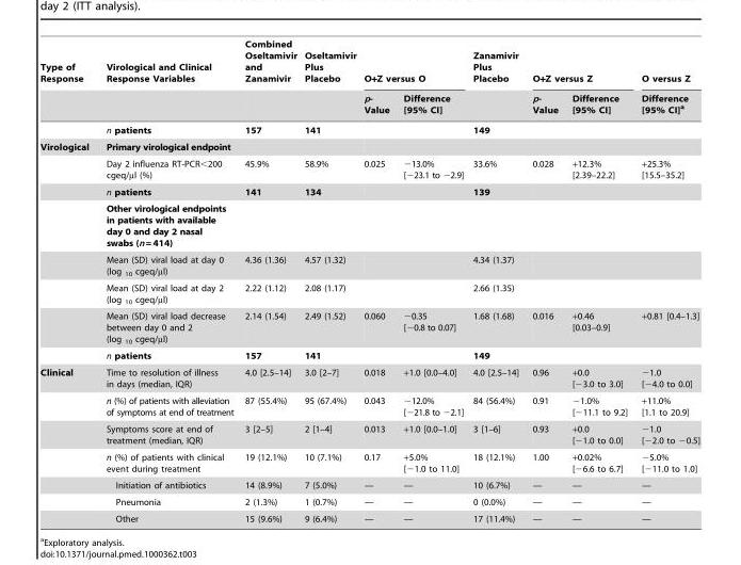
<table><thead><tr><td rowspan="2">Type of Response</td><td rowspan="2">Virological and Clinical Response Variables</td><td rowspan="2">Combined Oseltamivir and Zanamivir</td><td rowspan="2">Oseltamivir Plus Placebo</td><td colspan="2">O+Z versus O</td><td rowspan="2">Zanamivir Plus Placebo</td><td colspan="2">O+Z versus Z</td><td rowspan="2">O versus Z Difference [95% CI]<sup>a</sup></td></tr><tr><td>p- Value</td><td>Difference [95% CI]</td><td>p- Value</td><td>Difference [95% CI]</td></tr></thead><tbody><tr><td></td><td>n patients</td><td>157</td><td>141</td><td></td><td></td><td>149</td><td></td><td></td><td></td></tr><tr><td rowspan="8">Virological</td><td>Primary virological endpoint</td><td></td><td></td><td></td><td></td><td></td><td></td><td></td><td></td></tr><tr><td>Day 2 influenza RT-PCR&lt;200 cgeq/µl (%)</td><td>45.9%</td><td>58.9%</td><td>0.025</td><td>−13.0% [−23.1 to −2.9]</td><td>33.6%</td><td>0.028</td><td>+12.3% [2.39–22.2]</td><td>+25.3% [15.5–35.2]</td></tr><tr><td>n patients</td><td>141</td><td>134</td><td></td><td></td><td>139</td><td></td><td></td><td></td></tr><tr><td>Other virological endpoints in patients with available day 0 and day 2 nasal swabs (n = 414)</td><td></td><td></td><td></td><td></td><td></td><td></td><td></td><td></td></tr><tr><td>Mean (SD) viral load at day 0 (log <sub>10</sub> cgeq/µl)</td><td>4.36 (1.36)</td><td>4.57 (1.32)</td><td></td><td></td><td>4.34 (1.37)</td><td></td><td></td><td></td></tr><tr><td>Mean (SD) viral load at day 2 (log <sub>10</sub> cgeq/µl)</td><td>2.22 (1.12)</td><td>2.08 (1.17)</td><td></td><td></td><td>2.66 (1.35)</td><td></td><td></td><td></td></tr><tr><td>Mean (SD) viral load decrease between day 0 and 2 (log <sub>10</sub> cgeq/µl)</td><td>2.14 (1.54)</td><td>2.49 (1.52)</td><td>0.060</td><td>−0.35 [−0.8 to 0.07]</td><td>1.68 (1.68)</td><td>0.016</td><td>+0.46 [0.03–0.9]</td><td>+0.81 [0.4–1.3]</td></tr><tr><td>n patients</td><td>157</td><td>141</td><td></td><td></td><td>149</td><td></td><td></td><td></td></tr><tr><td rowspan="7">Clinical</td><td>Time to resolution of illness in days (median, IQR)</td><td>4.0 [2.5–14]</td><td>3.0 [2–7]</td><td>0.018</td><td>+1.0 [0.0–4.0]</td><td>4.0 [2.5–14]</td><td>0.96</td><td>+0.0 [−3.0 to 3.0]</td><td>−1.0 [−4.0 to 0.0]</td></tr><tr><td>n (%) of patients with alleviation of symptoms at end of treatment</td><td>87 (55.4%)</td><td>95 (67.4%)</td><td>0.043</td><td>−12.0% [−21.8 to −2.1]</td><td>84 (56.4%)</td><td>0.91</td><td>−1.0% [−11.1 to 9.2]</td><td>+11.0% [1.1 to 20.9]</td></tr><tr><td>Symptoms score at end of treatment (median, IQR)</td><td>3 [2–5]</td><td>2 [1–4]</td><td>0.013</td><td>+1.0 [0.0–1.0]</td><td>3 [1–6]</td><td>0.93</td><td>+0.0 [−1.0 to 0.0]</td><td>−1.0 [−2.0 to −0.5]</td></tr><tr><td>n (%) of patients with clinical event during treatment</td><td>19 (12.1%)</td><td>10 (7.1%)</td><td>0.17</td><td>+5.0% [−1.0 to 11.0]</td><td>18 (12.1%)</td><td>1.00</td><td>+0.02% [−6.6 to 6.7]</td><td>−5.0% [−11.0 to 1.0]</td></tr><tr><td>Initiation of antibiotics</td><td>14 (8.9%)</td><td>7 (5.0%)</td><td>—</td><td>—</td><td>10 (6.7%)</td><td>—</td><td>—</td><td>—</td></tr><tr><td>Pneumonia</td><td>2 (1.3%)</td><td>1 (0.7%)</td><td>—</td><td>—</td><td>0 (0.0%)</td><td>—</td><td>—</td><td>—</td></tr><tr><td>Other</td><td>15 (9.6%)</td><td>9 (6.4%)</td><td>—</td><td>—</td><td>17 (11.4%)</td><td>—</td><td>—</td><td>—</td></tr></tbody></table>